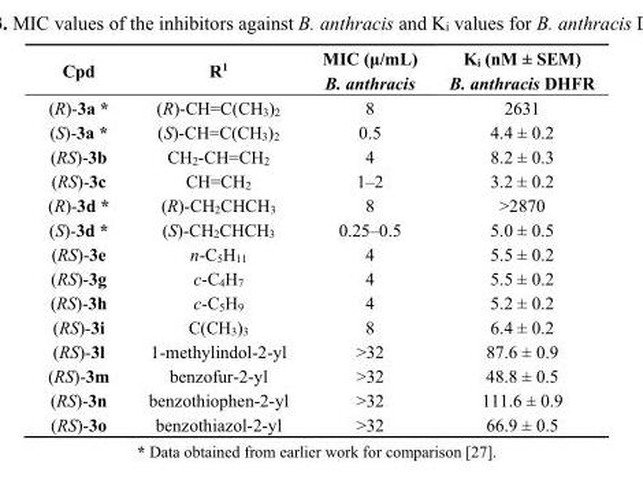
<table><thead><tr><td>Cpd</td><td>R<sup>1</sup></td><td>MIC (μ/mL) B. anthracis</td><td>K<sub>i</sub> (nM ± SEM) B. anthracis DHFR</td></tr></thead><tbody><tr><td>(R)-3a *</td><td>(R)-CH=C(CH<sub>3</sub>)<sub>2</sub></td><td>8</td><td>2631</td></tr><tr><td>(S)-3a *</td><td>(S)-CH=C(CH<sub>3</sub>)<sub>2</sub></td><td>0.5</td><td>4.4 ± 0.2</td></tr><tr><td>(RS)-3b</td><td>CH<sub>2</sub>-CH=CH<sub>2</sub></td><td>4</td><td>8.2 ± 0.3</td></tr><tr><td>(RS)-3c</td><td>CH=CH<sub>2</sub></td><td>1–2</td><td>3.2 ± 0.2</td></tr><tr><td>(R)-3d *</td><td>(R)-CH<sub>2</sub>CHCH<sub>3</sub></td><td>8</td><td>&gt;2870</td></tr><tr><td>(S)-3d *</td><td>(S)-CH<sub>2</sub>CHCH<sub>3</sub></td><td>0.25–0.5</td><td>5.0 ± 0.5</td></tr><tr><td>(RS)-3e</td><td>n-C<sub>5</sub>H<sub>11</sub></td><td>4</td><td>5.5 ± 0.2</td></tr><tr><td>(RS)-3g</td><td>c-C<sub>4</sub>H<sub>7</sub></td><td>4</td><td>5.5 ± 0.2</td></tr><tr><td>(RS)-3h</td><td>c-C<sub>5</sub>H<sub>9</sub></td><td>4</td><td>5.2 ± 0.2</td></tr><tr><td>(RS)-3i</td><td>C(CH<sub>3</sub>)<sub>3</sub></td><td>8</td><td>6.4 ± 0.2</td></tr><tr><td>(RS)-3l</td><td>1-methylindol-2-yl</td><td>&gt;32</td><td>87.6 ± 0.9</td></tr><tr><td>(RS)-3m</td><td>benzofur-2-yl</td><td>&gt;32</td><td>48.8 ± 0.5</td></tr><tr><td>(RS)-3n</td><td>benzothiophen-2-yl</td><td>&gt;32</td><td>111.6 ± 0.9</td></tr><tr><td>(RS)-3o</td><td>benzothiazol-2-yl</td><td>&gt;32</td><td>66.9 ± 0.5</td></tr></tbody></table>